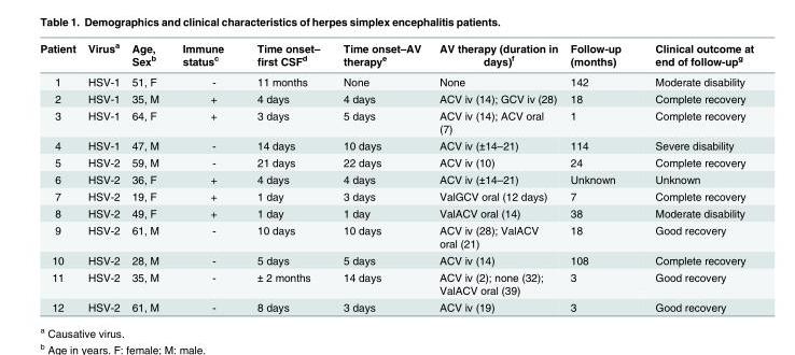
<table><thead><tr><td>Patient</td><td>Virus<sup>a</sup></td><td>Age, Sex<sup>b</sup></td><td>Immune status<sup>c</sup></td><td>Time onset– first CSF<sup>d</sup></td><td>Time onset–AV therapy<sup>e</sup></td><td>AV therapy (duration in days)<sup>f</sup></td><td>Follow-up (months)</td><td>Clinical outcome at end of follow-up<sup>g</sup></td></tr></thead><tbody><tr><td>1</td><td>HSV-1</td><td>51, F</td><td>-</td><td>11 months</td><td>None</td><td>None</td><td>142</td><td>Moderate disability</td></tr><tr><td>2</td><td>HSV-1</td><td>35, M</td><td>+</td><td>4 days</td><td>4 days</td><td>ACV iv (14); GCV iv (28)</td><td>18</td><td>Complete recovery</td></tr><tr><td>3</td><td>HSV-1</td><td>64, F</td><td>+</td><td>3 days</td><td>5 days</td><td>ACV iv (14); ACV oral (7)</td><td>1</td><td>Complete recovery</td></tr><tr><td>4</td><td>HSV-1</td><td>47, M</td><td>-</td><td>14 days</td><td>10 days</td><td>ACV iv (±14–21)</td><td>114</td><td>Severe disability</td></tr><tr><td>5</td><td>HSV-2</td><td>59, M</td><td>-</td><td>21 days</td><td>22 days</td><td>ACV iv (10)</td><td>24</td><td>Complete recovery</td></tr><tr><td>6</td><td>HSV-2</td><td>36, F</td><td>+</td><td>4 days</td><td>4 days</td><td>ACV iv (±14–21)</td><td>Unknown</td><td>Unknown</td></tr><tr><td>7</td><td>HSV-2</td><td>19, F</td><td>+</td><td>1 day</td><td>3 days</td><td>ValGCV oral (12 days)</td><td>7</td><td>Complete recovery</td></tr><tr><td>8</td><td>HSV-2</td><td>49, F</td><td>+</td><td>1 day</td><td>1 day</td><td>ValACV oral (14)</td><td>38</td><td>Moderate disability</td></tr><tr><td>9</td><td>HSV-2</td><td>61, M</td><td>-</td><td>10 days</td><td>10 days</td><td>ACV iv (28); ValACV oral (21)</td><td>18</td><td>Good recovery</td></tr><tr><td>10</td><td>HSV-2</td><td>28, M</td><td>-</td><td>5 days</td><td>5 days</td><td>ACV iv (14)</td><td>108</td><td>Complete recovery</td></tr><tr><td>11</td><td>HSV-2</td><td>35, M</td><td>-</td><td>± 2 months</td><td>14 days</td><td>ACV iv (2); none (32); ValACV oral (39)</td><td>3</td><td>Good recovery</td></tr><tr><td>12</td><td>HSV-2</td><td>61, M</td><td>-</td><td>8 days</td><td>3 days</td><td>ACV iv (19)</td><td>3</td><td>Good recovery</td></tr></tbody></table>